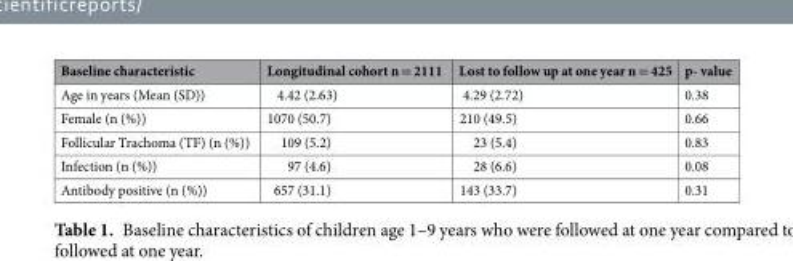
<table><thead><tr><td>Baseline characteristic</td><td>Longitudinal cohort n = 2111</td><td>Lost to follow up at one year n = 425</td><td>p- value</td></tr></thead><tbody><tr><td>Age in years (Mean (SD))</td><td>4.42 (2.63)</td><td>4.29 (2.72)</td><td>0.38</td></tr><tr><td>Female (n (%))</td><td>1070 (50.7)</td><td>210 (49.5)</td><td>0.66</td></tr><tr><td>Follicular Trachoma (TF) (n (%))</td><td>109 (5.2)</td><td>23 (5.4)</td><td>0.83</td></tr><tr><td>Infection (n (%))</td><td>97 (4.6)</td><td>28 (6.6)</td><td>0.08</td></tr><tr><td>Antibody positive (n (%))</td><td>657 (31.1)</td><td>143 (33.7)</td><td>0.31</td></tr></tbody></table>